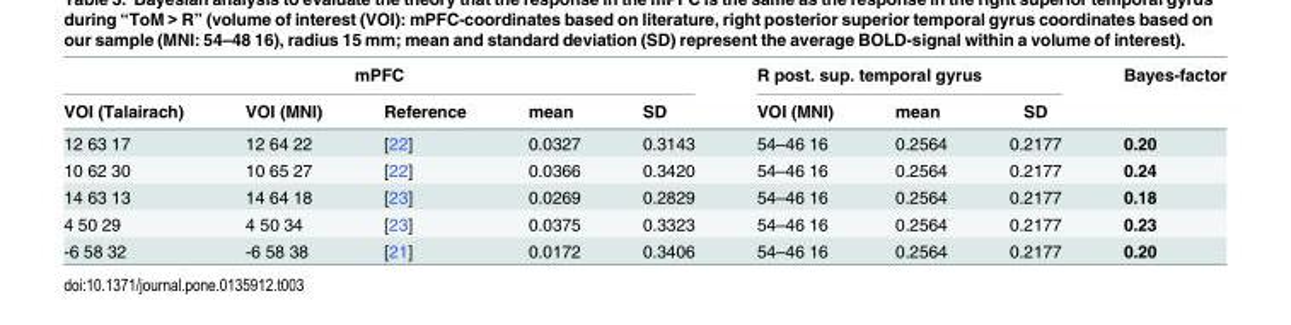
<table><thead><tr><td colspan="5">mPFC</td><td colspan="3">R post. sup. temporal gyrus</td><td rowspan="2">Bayes-factor</td></tr><tr><td>VOI (Talairach)</td><td>VOI (MNI)</td><td>Reference</td><td>mean</td><td>SD</td><td>VOI (MNI)</td><td>mean</td><td>SD</td></tr></thead><tbody><tr><td>12 63 17</td><td>12 64 22</td><td>[22]</td><td>0.0327</td><td>0.3143</td><td>54–46 16</td><td>0.2564</td><td>0.2177</td><td>0.20</td></tr><tr><td>10 62 30</td><td>10 65 27</td><td>[22]</td><td>0.0366</td><td>0.3420</td><td>54–46 16</td><td>0.2564</td><td>0.2177</td><td>0.24</td></tr><tr><td>14 63 13</td><td>14 64 18</td><td>[23]</td><td>0.0269</td><td>0.2829</td><td>54–46 16</td><td>0.2564</td><td>0.2177</td><td>0.18</td></tr><tr><td>4 50 29</td><td>4 50 34</td><td>[23]</td><td>0.0375</td><td>0.3323</td><td>54–46 16</td><td>0.2564</td><td>0.2177</td><td>0.23</td></tr><tr><td>-6 58 32</td><td>-6 58 38</td><td>[21]</td><td>0.0172</td><td>0.3406</td><td>54–46 16</td><td>0.2564</td><td>0.2177</td><td>0.20</td></tr></tbody></table>